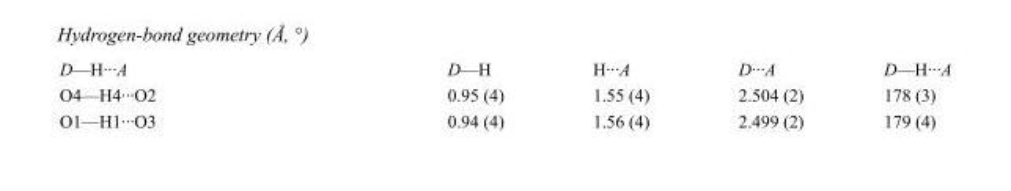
<table><tbody><tr><td>D—H···A</td><td>D—H</td><td>H···A</td><td>D···A</td><td>D—H···A</td></tr><tr><td>O4—H4···O2</td><td>0.95 (4)</td><td>1.55 (4)</td><td>2.504 (2)</td><td>178 (3)</td></tr><tr><td>O1—H1···O3</td><td>0.94 (4)</td><td>1.56 (4)</td><td>2.499 (2)</td><td>179 (4)</td></tr></tbody></table>